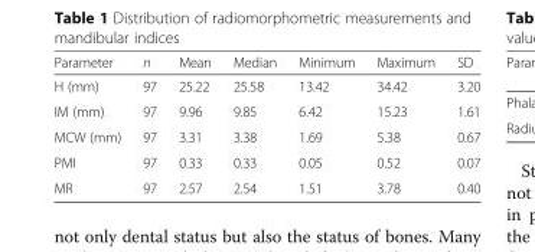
<table><thead><tr><td>Parameter</td><td>n</td><td>Mean</td><td>Median</td><td>Minimum</td><td>Maximum</td><td>SD</td></tr></thead><tbody><tr><td>H (mm)</td><td>97</td><td>25.22</td><td>25.58</td><td>13.42</td><td>34.42</td><td>3.20</td></tr><tr><td>IM (mm)</td><td>97</td><td>9.96</td><td>9.85</td><td>6.42</td><td>15.23</td><td>1.61</td></tr><tr><td>MCW (mm)</td><td>97</td><td>3.31</td><td>3.38</td><td>1.69</td><td>5.38</td><td>0.67</td></tr><tr><td>PMI</td><td>97</td><td>0.33</td><td>0.33</td><td>0.05</td><td>0.52</td><td>0.07</td></tr><tr><td>MR</td><td>97</td><td>2.57</td><td>2.54</td><td>1.51</td><td>3.78</td><td>0.40</td></tr></tbody></table>